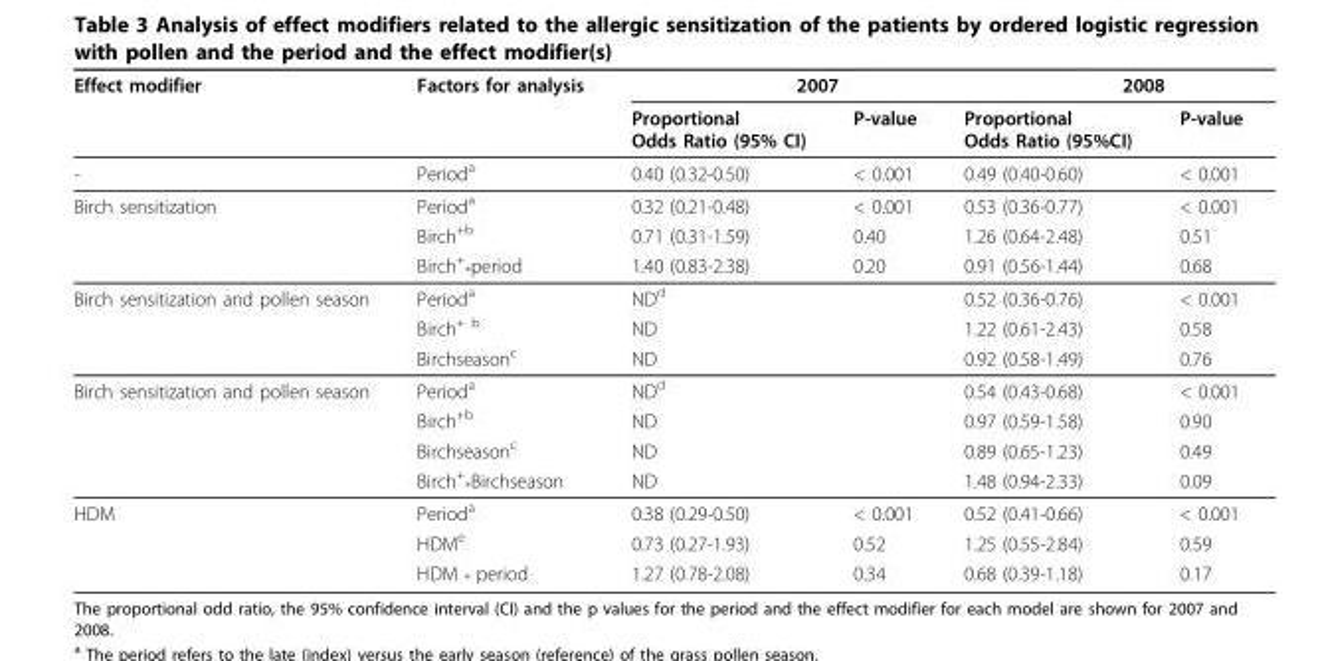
<table><thead><tr><td rowspan="2">Effect modifier</td><td rowspan="2">Factors for analysis</td><td rowspan="2">2007 Proportional Odds Ratio (95% CI)</td><td rowspan="2">P-value</td><td rowspan="2">2008 Proportional Odds Ratio (95%CI)</td><td rowspan="2">P-value</td></tr><tr></tr></thead><tbody><tr><td>-</td><td>Perioda</td><td>0.40 (0.32-0.50)</td><td>&lt; 0.001</td><td>0.49 (0.40-0.60)</td><td>&lt; 0.001</td></tr><tr><td rowspan="3">Birch sensitization</td><td>Perioda</td><td>0.32 (0.21-0.48)</td><td>&lt; 0.001</td><td>0.53 (0.36-0.77)</td><td>&lt; 0.001</td></tr><tr><td>Birch<sup>+b</sup></td><td>0.71 (0.31-1.59)</td><td>0.40</td><td>1.26 (0.64-2.48)</td><td>0.51</td></tr><tr><td>Birch<sup>+</sup> <sub>*</sub>period</td><td>1.40 (0.83-2.38)</td><td>0.20</td><td>0.91 (0.56-1.44)</td><td>0.68</td></tr><tr><td rowspan="3">Birch sensitization and pollen season</td><td>Perioda</td><td>ND<sup>d</sup></td><td></td><td>0.52 (0.36-0.76)</td><td>&lt; 0.001</td></tr><tr><td>Birch<sup>+ b</sup></td><td>ND</td><td></td><td>1.22 (0.61-2.43)</td><td>0.58</td></tr><tr><td>Birchseason<sup>c</sup></td><td>ND</td><td></td><td>0.92 (0.58-1.49)</td><td>0.76</td></tr><tr><td rowspan="4">Birch sensitization and pollen season</td><td>Perioda</td><td>ND<sup>d</sup></td><td></td><td>0.54 (0.43-0.68)</td><td>&lt; 0.001</td></tr><tr><td>Birch<sup>+b</sup></td><td>ND</td><td></td><td>0.97 (0.59-1.58)</td><td>0.90</td></tr><tr><td>Birchseason<sup>c</sup></td><td>ND</td><td></td><td>0.89 (0.65-1.23)</td><td>0.49</td></tr><tr><td>Birch<sup>+</sup> <sub>*</sub>Birchseason</td><td>ND</td><td></td><td>1.48 (0.94-2.33)</td><td>0.09</td></tr><tr><td rowspan="3">HDM</td><td>Perioda</td><td>0.38 (0.29-0.50)</td><td>&lt; 0.001</td><td>0.52 (0.41-0.66)</td><td>&lt; 0.001</td></tr><tr><td>HDM<sup>e</sup></td><td>0.73 (0.27-1.93)</td><td>0.52</td><td>1.25 (0.55-2.84)</td><td>0.59</td></tr><tr><td>HDM <sub>*</sub> period</td><td>1.27 (0.78-2.08)</td><td>0.34</td><td>0.68 (0.39-1.18)</td><td>0.17</td></tr></tbody></table>